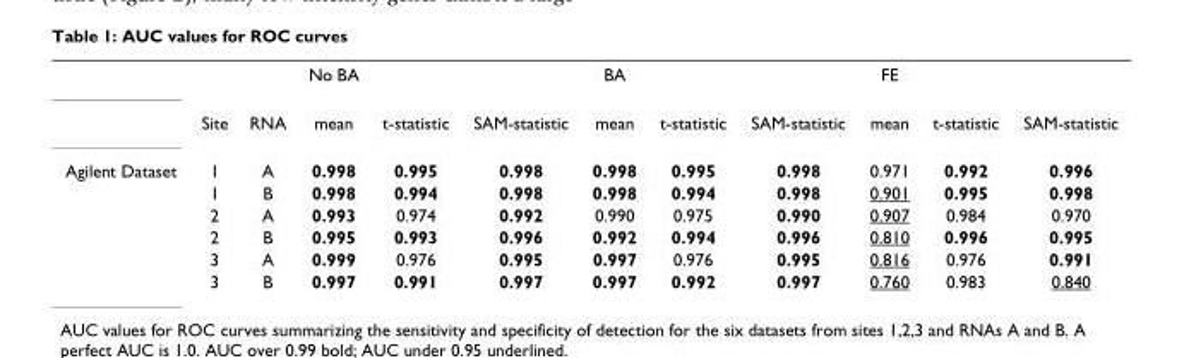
<table><thead><tr><td rowspan="2"></td><td rowspan="2">Site</td><td rowspan="2">RNA</td><td colspan="3">No BA</td><td colspan="3">BA</td><td colspan="3">FE</td></tr><tr><td>mean</td><td>t-statistic</td><td>SAM-statistic</td><td>mean</td><td>t-statistic</td><td>SAM-statistic</td><td>mean</td><td>t-statistic</td><td>SAM-statistic</td></tr></thead><tbody><tr><td rowspan="6">Agilent Dataset</td><td>1</td><td>A</td><td>0.998</td><td>0.995</td><td>0.998</td><td>0.998</td><td>0.995</td><td>0.998</td><td>0.971</td><td>0.992</td><td>0.996</td></tr><tr><td>1</td><td>B</td><td>0.998</td><td>0.994</td><td>0.998</td><td>0.998</td><td>0.994</td><td>0.998</td><td>0.901</td><td>0.995</td><td>0.998</td></tr><tr><td>2</td><td>A</td><td>0.993</td><td>0.974</td><td>0.992</td><td>0.990</td><td>0.975</td><td>0.990</td><td>0.907</td><td>0.984</td><td>0.970</td></tr><tr><td>2</td><td>B</td><td>0.995</td><td>0.993</td><td>0.996</td><td>0.992</td><td>0.994</td><td>0.996</td><td>0.810</td><td>0.996</td><td>0.995</td></tr><tr><td>3</td><td>A</td><td>0.999</td><td>0.976</td><td>0.995</td><td>0.997</td><td>0.976</td><td>0.995</td><td>0.816</td><td>0.976</td><td>0.991</td></tr><tr><td>3</td><td>B</td><td>0.997</td><td>0.991</td><td>0.997</td><td>0.997</td><td>0.992</td><td>0.997</td><td>0.760</td><td>0.983</td><td>0.840</td></tr></tbody></table>